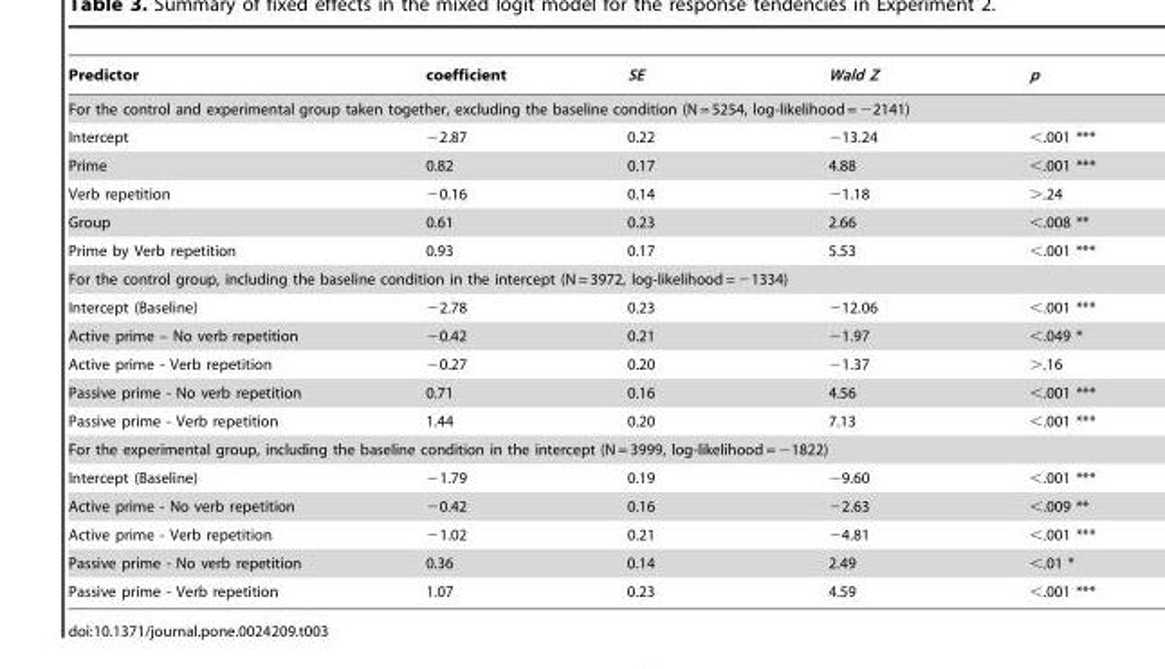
<table><thead><tr><td>Predictor</td><td>coefficient</td><td>SE</td><td>Wald Z</td><td>p</td></tr></thead><tbody><tr><td colspan="5">For the control and experimental group taken together, excluding the baseline condition (N = 5254, log-likelihood = −2141)</td></tr><tr><td>Intercept</td><td>−2.87</td><td>0.22</td><td>−13.24</td><td>&lt;.001 ***</td></tr><tr><td>Prime</td><td>0.82</td><td>0.17</td><td>4.88</td><td>&lt;.001 ***</td></tr><tr><td>Verb repetition</td><td>−0.16</td><td>0.14</td><td>−1.18</td><td>&gt;.24</td></tr><tr><td>Group</td><td>0.61</td><td>0.23</td><td>2.66</td><td>&lt;.008 **</td></tr><tr><td>Prime by Verb repetition</td><td>0.93</td><td>0.17</td><td>5.53</td><td>&lt;.001 ***</td></tr><tr><td colspan="5">For the control group, including the baseline condition in the intercept (N = 3972, log-likelihood = −1334)</td></tr><tr><td>Intercept (Baseline)</td><td>−2.78</td><td>0.23</td><td>−12.06</td><td>&lt;.001 ***</td></tr><tr><td>Active prime – No verb repetition</td><td>−0.42</td><td>0.21</td><td>−1.97</td><td>&lt;.049 *</td></tr><tr><td>Active prime - Verb repetition</td><td>−0.27</td><td>0.20</td><td>−1.37</td><td>&gt;.16</td></tr><tr><td>Passive prime - No verb repetition</td><td>0.71</td><td>0.16</td><td>4.56</td><td>&lt;.001 ***</td></tr><tr><td>Passive prime - Verb repetition</td><td>1.44</td><td>0.20</td><td>7.13</td><td>&lt;.001 ***</td></tr><tr><td colspan="5">For the experimental group, including the baseline condition in the intercept (N = 3999, log-likelihood = −1822)</td></tr><tr><td>Intercept (Baseline)</td><td>−1.79</td><td>0.19</td><td>−9.60</td><td>&lt;.001 ***</td></tr><tr><td>Active prime - No verb repetition</td><td>−0.42</td><td>0.16</td><td>−2.63</td><td>&lt;.009 **</td></tr><tr><td>Active prime - Verb repetition</td><td>−1.02</td><td>0.21</td><td>−4.81</td><td>&lt;.001 ***</td></tr><tr><td>Passive prime - No verb repetition</td><td>0.36</td><td>0.14</td><td>2.49</td><td>&lt;.01 *</td></tr><tr><td>Passive prime - Verb repetition</td><td>1.07</td><td>0.23</td><td>4.59</td><td>&lt;.001 ***</td></tr></tbody></table>